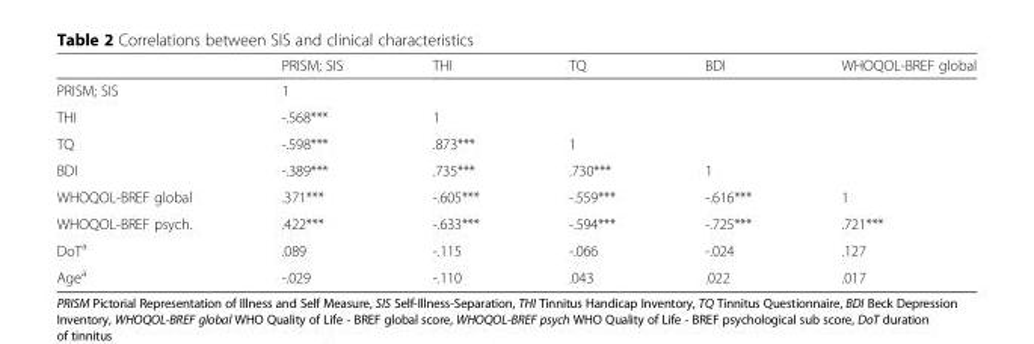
<table><thead><tr><td></td><td>PRISM; SIS</td><td>THI</td><td>TQ</td><td>BDI</td><td>WHOQOL-BREF global</td></tr></thead><tbody><tr><td>PRISM; SIS</td><td>1</td><td></td><td></td><td></td><td></td></tr><tr><td>THI</td><td>-.568***</td><td>1</td><td></td><td></td><td></td></tr><tr><td>TQ</td><td>-.598***</td><td>.873***</td><td>1</td><td></td><td></td></tr><tr><td>BDI</td><td>-.389***</td><td>.735***</td><td>.730***</td><td>1</td><td></td></tr><tr><td>WHOQOL-BREF global</td><td>.371***</td><td>-.605***</td><td>-.559***</td><td>-.616***</td><td>1</td></tr><tr><td>WHOQOL-BREF psych.</td><td>.422***</td><td>-.633***</td><td>-.594***</td><td>-.725***</td><td>.721***</td></tr><tr><td>DoT<sup>a</sup></td><td>.089</td><td>-.115</td><td>-.066</td><td>-.024</td><td>.127</td></tr><tr><td>Age<sup>a</sup></td><td>-.029</td><td>-.110</td><td>.043</td><td>.022</td><td>.017</td></tr></tbody></table>